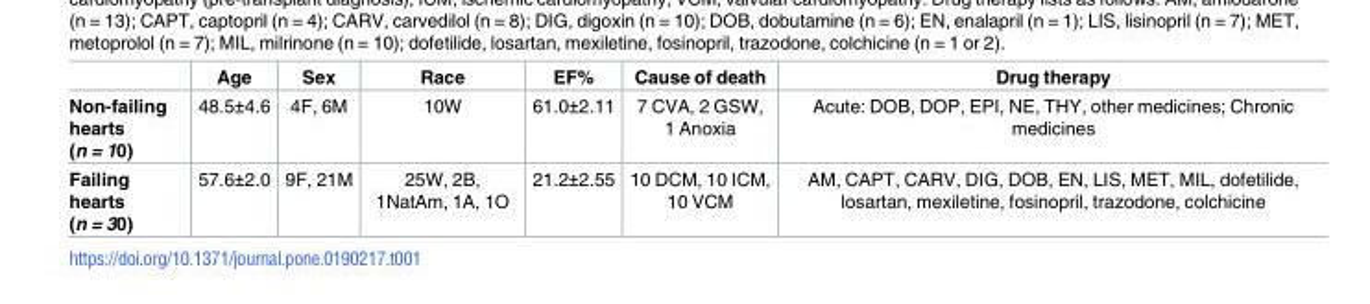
<table><thead><tr><td></td><td>Age</td><td>Sex</td><td>Race</td><td>EF%</td><td>Cause of death</td><td>Drug therapy</td></tr></thead><tbody><tr><td>Non-failing hearts (n = 10)</td><td>48.5±4.6</td><td>4F, 6M</td><td>10W</td><td>61.0±2.11</td><td>7 CVA, 2 GSW, 1 Anoxia</td><td>Acute: DOB, DOP, EPI, NE, THY, other medicines; Chronic medicines</td></tr><tr><td>Failing hearts (n = 30)</td><td>57.6±2.0</td><td>9F, 21M</td><td>25W, 2B, 1NatAm, 1A, 1O</td><td>21.2±2.55</td><td>10 DCM, 10 ICM, 10 VCM</td><td>AM, CAPT, CARV, DIG, DOB, EN, LIS, MET, MIL, dofetilide, losartan, mexiletine, fosinopril, trazodone, colchicine</td></tr></tbody></table>